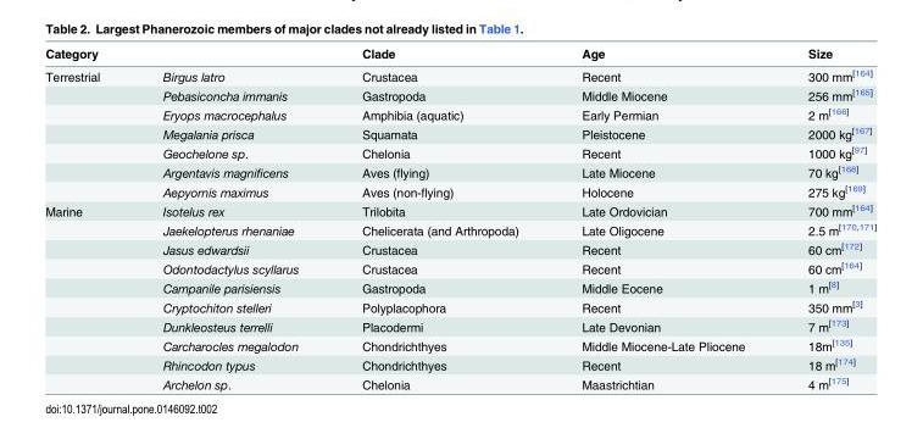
<table><thead><tr><td>Category</td><td></td><td>Clade</td><td>Age</td><td>Size</td></tr></thead><tbody><tr><td rowspan="7">Terrestrial</td><td>Birgus latro</td><td>Crustacea</td><td>Recent</td><td>300 mm<sup>[164]</sup></td></tr><tr><td>Pebasiconcha immanis</td><td>Gastropoda</td><td>Middle Miocene</td><td>256 mm<sup>[165]</sup></td></tr><tr><td>Eryops macrocephalus</td><td>Amphibia (aquatic)</td><td>Early Permian</td><td>2 m<sup>[166]</sup></td></tr><tr><td>Megalania prisca</td><td>Squamata</td><td>Pleistocene</td><td>2000 kg<sup>[167]</sup></td></tr><tr><td>Geochelone sp.</td><td>Chelonia</td><td>Recent</td><td>1000 kg<sup>[97]</sup></td></tr><tr><td>Argentavis magnificens</td><td>Aves (flying)</td><td>Late Miocene</td><td>70 kg<sup>[168]</sup></td></tr><tr><td>Aepyornis maximus</td><td>Aves (non-flying)</td><td>Holocene</td><td>275 kg<sup>[169]</sup></td></tr><tr><td rowspan="10">Marine</td><td>Isotelus rex</td><td>Trilobita</td><td>Late Ordovician</td><td>700 mm<sup>[164]</sup></td></tr><tr><td>Jaekelopterus rhenaniae</td><td>Chelicerata (and Arthropoda)</td><td>Late Oligocene</td><td>2.5 m<sup>[170,171]</sup></td></tr><tr><td>Jasus edwardsii</td><td>Crustacea</td><td>Recent</td><td>60 cm<sup>[172]</sup></td></tr><tr><td>Odontodactylus scyllarus</td><td>Crustacea</td><td>Recent</td><td>60 cm<sup>[164]</sup></td></tr><tr><td>Campanile parisiensis</td><td>Gastropoda</td><td>Middle Eocene</td><td>1 m<sup>[8]</sup></td></tr><tr><td>Cryptochiton stelleri</td><td>Polyplacophora</td><td>Recent</td><td>350 mm<sup>[3]</sup></td></tr><tr><td>Dunkleosteus terrelli</td><td>Placodermi</td><td>Late Devonian</td><td>7 m<sup>[173]</sup></td></tr><tr><td>Carcharocles megalodon</td><td>Chondrichthyes</td><td>Middle Miocene-Late Pliocene</td><td>18m<sup>[135]</sup></td></tr><tr><td>Rhincodon typus</td><td>Chondrichthyes</td><td>Recent</td><td>18 m<sup>[174]</sup></td></tr><tr><td>Archelon sp.</td><td>Chelonia</td><td>Maastrichtian</td><td>4 m<sup>[175]</sup></td></tr></tbody></table>